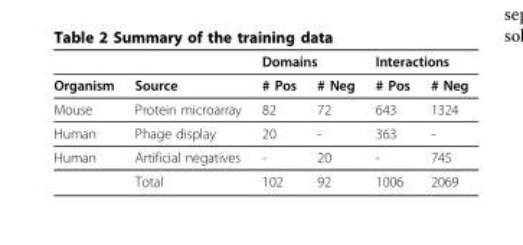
<table><thead><tr><td rowspan="2">Organism</td><td rowspan="2">Source</td><td colspan="2">Domains</td><td colspan="2">Interactions</td></tr><tr><td># Pos</td><td># Neg</td><td># Pos</td><td># Neg</td></tr></thead><tbody><tr><td>Mouse</td><td>Protein microarray</td><td>82</td><td>72</td><td>643</td><td>1324</td></tr><tr><td>Human</td><td>Phage display</td><td>20</td><td>-</td><td>363</td><td>-</td></tr><tr><td rowspan="2">Human</td><td>Artificial negatives</td><td>-</td><td>20</td><td>-</td><td>745</td></tr><tr><td>Total</td><td>102</td><td>92</td><td>1006</td><td>2069</td></tr></tbody></table>